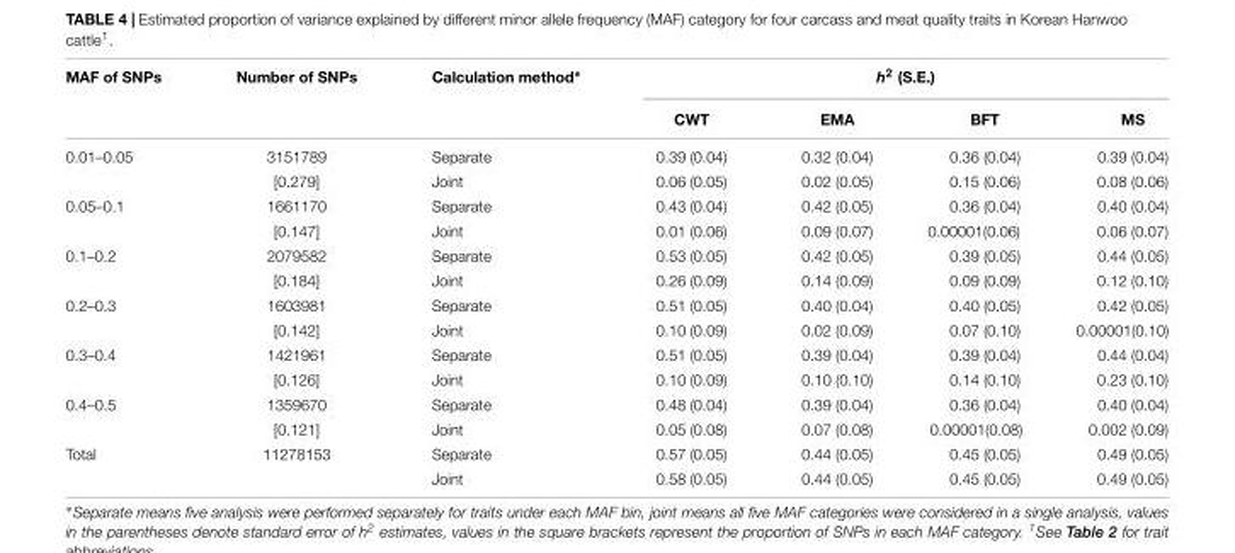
<table><thead><tr><td rowspan="2">MAF of SNPs</td><td rowspan="2">Number of SNPs</td><td rowspan="2">Calculation method∗</td><td colspan="4">h<sup>2</sup> (S.E.)</td></tr><tr><td>CWT</td><td>EMA</td><td>BFT</td><td>MS</td></tr></thead><tbody><tr><td rowspan="2">0.01–0.05</td><td>3151789</td><td>Separate</td><td>0.39 (0.04)</td><td>0.32 (0.04)</td><td>0.36 (0.04)</td><td>0.39 (0.04)</td></tr><tr><td>[0.279]</td><td>Joint</td><td>0.06 (0.05)</td><td>0.02 (0.05)</td><td>0.15 (0.06)</td><td>0.08 (0.06)</td></tr><tr><td rowspan="2">0.05–0.1</td><td>1661170</td><td>Separate</td><td>0.43 (0.04)</td><td>0.42 (0.05)</td><td>0.36 (0.04)</td><td>0.40 (0.04)</td></tr><tr><td>[0.147]</td><td>Joint</td><td>0.01 (0.06)</td><td>0.09 (0.07)</td><td>0.00001(0.06)</td><td>0.06 (0.07)</td></tr><tr><td rowspan="2">0.1–0.2</td><td>2079582</td><td>Separate</td><td>0.53 (0.05)</td><td>0.42 (0.05)</td><td>0.39 (0.05)</td><td>0.44 (0.05)</td></tr><tr><td>[0.184]</td><td>Joint</td><td>0.26 (0.09)</td><td>0.14 (0.09)</td><td>0.09 (0.09)</td><td>0.12 (0.10)</td></tr><tr><td rowspan="2">0.2–0.3</td><td>1603981</td><td>Separate</td><td>0.51 (0.05)</td><td>0.40 (0.04)</td><td>0.40 (0.05)</td><td>0.42 (0.05)</td></tr><tr><td>[0.142]</td><td>Joint</td><td>0.10 (0.09)</td><td>0.02 (0.09)</td><td>0.07 (0.10)</td><td>0.00001(0.10)</td></tr><tr><td rowspan="2">0.3–0.4</td><td>1421961</td><td>Separate</td><td>0.51 (0.05)</td><td>0.39 (0.04)</td><td>0.39 (0.04)</td><td>0.44 (0.04)</td></tr><tr><td>[0.126]</td><td>Joint</td><td>0.10 (0.09)</td><td>0.10 (0.10)</td><td>0.14 (0.10)</td><td>0.23 (0.10)</td></tr><tr><td rowspan="2">0.4–0.5</td><td>1359670</td><td>Separate</td><td>0.48 (0.04)</td><td>0.39 (0.04)</td><td>0.36 (0.04)</td><td>0.40 (0.04)</td></tr><tr><td>[0.121]</td><td>Joint</td><td>0.05 (0.08)</td><td>0.07 (0.08)</td><td>0.00001(0.08)</td><td>0.002 (0.09)</td></tr><tr><td rowspan="2">Total</td><td>11278153</td><td>Separate</td><td>0.57 (0.05)</td><td>0.44 (0.05)</td><td>0.45 (0.05)</td><td>0.49 (0.05)</td></tr><tr><td></td><td>Joint</td><td>0.58 (0.05)</td><td>0.44 (0.05)</td><td>0.45 (0.05)</td><td>0.49 (0.05)</td></tr></tbody></table>